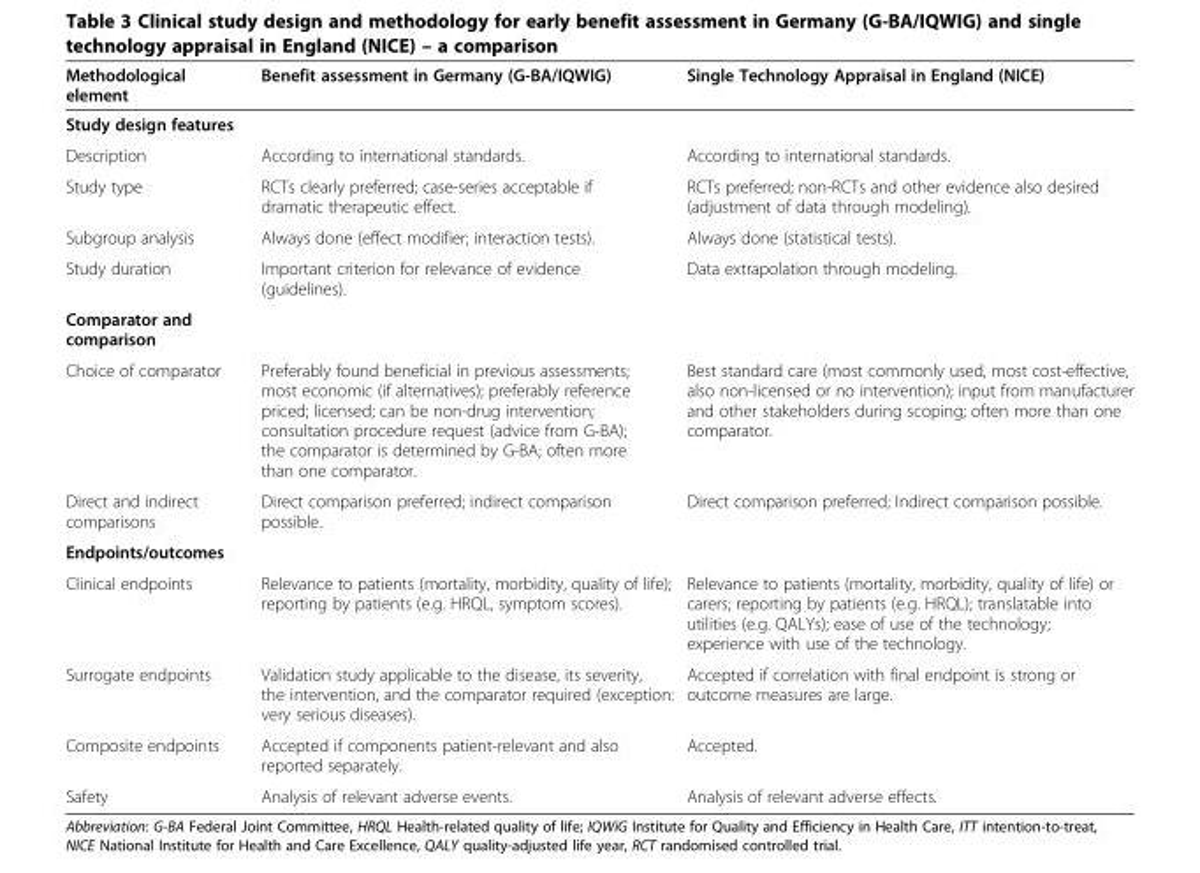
<table><thead><tr><td>Methodological element</td><td>Benefit assessment in Germany (G-BA/IQWIG)</td><td>Single Technology Appraisal in England (NICE)</td></tr></thead><tbody><tr><td colspan="3">Study design features</td></tr><tr><td>Description</td><td>According to international standards.</td><td>According to international standards.</td></tr><tr><td>Study type</td><td>RCTs clearly preferred; case-series acceptable if dramatic therapeutic effect.</td><td>RCTs preferred; non-RCTs and other evidence also desired (adjustment of data through modeling).</td></tr><tr><td>Subgroup analysis</td><td>Always done (effect modifier; interaction tests).</td><td>Always done (statistical tests).</td></tr><tr><td>Study duration</td><td>Important criterion for relevance of evidence (guidelines).</td><td>Data extrapolation through modeling.</td></tr><tr><td colspan="3">Comparator and comparison</td></tr><tr><td>Choice of comparator</td><td>Preferably found beneficial in previous assessments; most economic (if alternatives); preferably reference priced; licensed; can be non-drug intervention; consultation procedure request (advice from G-BA); the comparator is determined by G-BA; often more than one comparator.</td><td>Best standard care (most commonly used, most cost-effective, also non-licensed or no intervention); input from manufacturer and other stakeholders during scoping; often more than one comparator.</td></tr><tr><td>Direct and indirect comparisons</td><td>Direct comparison preferred; indirect comparison possible.</td><td>Direct comparison preferred; Indirect comparison possible.</td></tr><tr><td colspan="3">Endpoints/outcomes</td></tr><tr><td>Clinical endpoints</td><td>Relevance to patients (mortality, morbidity, quality of life); reporting by patients (e.g. HRQL, symptom scores).</td><td>Relevance to patients (mortality, morbidity, quality of life) or carers; reporting by patients (e.g. HRQL); translatable into utilities (e.g. QALYs); ease of use of the technology; experience with use of the technology.</td></tr><tr><td>Surrogate endpoints</td><td>Validation study applicable to the disease, its severity, the intervention, and the comparator required (exception: very serious diseases).</td><td>Accepted if correlation with final endpoint is strong or outcome measures are large.</td></tr><tr><td>Composite endpoints</td><td>Accepted if components patient-relevant and also reported separately.</td><td>Accepted.</td></tr><tr><td>Safety</td><td>Analysis of relevant adverse events.</td><td>Analysis of relevant adverse effects.</td></tr></tbody></table>